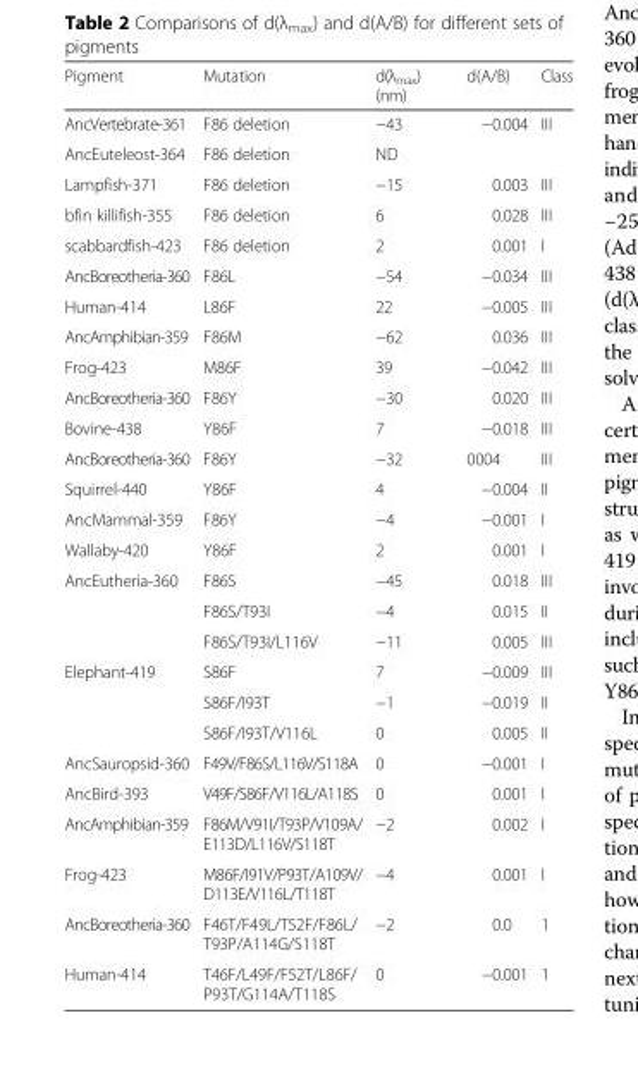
<table><thead><tr><td>Pigment</td><td>Mutation</td><td>d(λ<sub>max</sub>) (nm)</td><td>d(A/B)</td><td>Class</td></tr></thead><tbody><tr><td>AncVertebrate-361</td><td>F86 deletion</td><td>−43</td><td>−0.004</td><td>III</td></tr><tr><td>AncEuteleost-364</td><td>F86 deletion</td><td>ND</td><td></td><td></td></tr><tr><td>Lampfish-371</td><td>F86 deletion</td><td>−15</td><td>0.003</td><td>III</td></tr><tr><td>bfin killifish-355</td><td>F86 deletion</td><td>6</td><td>0.028</td><td>III</td></tr><tr><td>scabbardfish-423</td><td>F86 deletion</td><td>2</td><td>0.001</td><td>I</td></tr><tr><td>AncBoreotheria-360</td><td>F86L</td><td>−54</td><td>−0.034</td><td>III</td></tr><tr><td>Human-414</td><td>L86F</td><td>22</td><td>−0.005</td><td>III</td></tr><tr><td>AncAmphibian-359</td><td>F86M</td><td>−62</td><td>0.036</td><td>III</td></tr><tr><td>Frog-423</td><td>M86F</td><td>39</td><td>−0.042</td><td>III</td></tr><tr><td>AncBoreotheria-360</td><td>F86Y</td><td>−30</td><td>0.020</td><td>III</td></tr><tr><td>Bovine-438</td><td>Y86F</td><td>7</td><td>−0.018</td><td>III</td></tr><tr><td>AncBoreotheria-360</td><td>F86Y</td><td>−32</td><td>0004</td><td>III</td></tr><tr><td>Squirrel-440</td><td>Y86F</td><td>4</td><td>−0.004</td><td>II</td></tr><tr><td>AncMammal-359</td><td>F86Y</td><td>−4</td><td>−0.001</td><td>I</td></tr><tr><td>Wallaby-420</td><td>Y86F</td><td>2</td><td>0.001</td><td>I</td></tr><tr><td rowspan="3">AncEutheria-360</td><td>F86S</td><td>−45</td><td>0.018</td><td>III</td></tr><tr><td>F86S/T93I</td><td>−4</td><td>0.015</td><td>II</td></tr><tr><td>F86S/T93I/L116V</td><td>−11</td><td>0.005</td><td>III</td></tr><tr><td rowspan="3">Elephant-419</td><td>S86F</td><td>7</td><td>−0.009</td><td>III</td></tr><tr><td>S86F/I93T</td><td>−1</td><td>−0.019</td><td>II</td></tr><tr><td>S86F/I93T/V116L</td><td>0</td><td>0.005</td><td>II</td></tr><tr><td>AncSauropsid-360</td><td>F49V/F86S/L116V/S118A</td><td>0</td><td>−0.001</td><td>I</td></tr><tr><td>AncBird-393</td><td>V49F/S86F/V116L/A118S</td><td>0</td><td>0.001</td><td>I</td></tr><tr><td>AncAmphibian-359</td><td>F86M/V91I/T93P/V109A/ E113D/L116V/S118T</td><td>−2</td><td>0.002</td><td>I</td></tr><tr><td>Frog-423</td><td>M86F/I91V/P93T/A109V/ D113E/V116L/T118T</td><td>−4</td><td>0.001</td><td>I</td></tr><tr><td>AncBoreotheria-360</td><td>F46T/F49L/T52F/F86L/ T93P/A114G/S118T</td><td>−2</td><td>0.0</td><td>1</td></tr><tr><td>Human-414</td><td>T46F/L49F/F52T/L86F/ P93T/G114A/T118S</td><td>0</td><td>−0.001</td><td>1</td></tr></tbody></table>